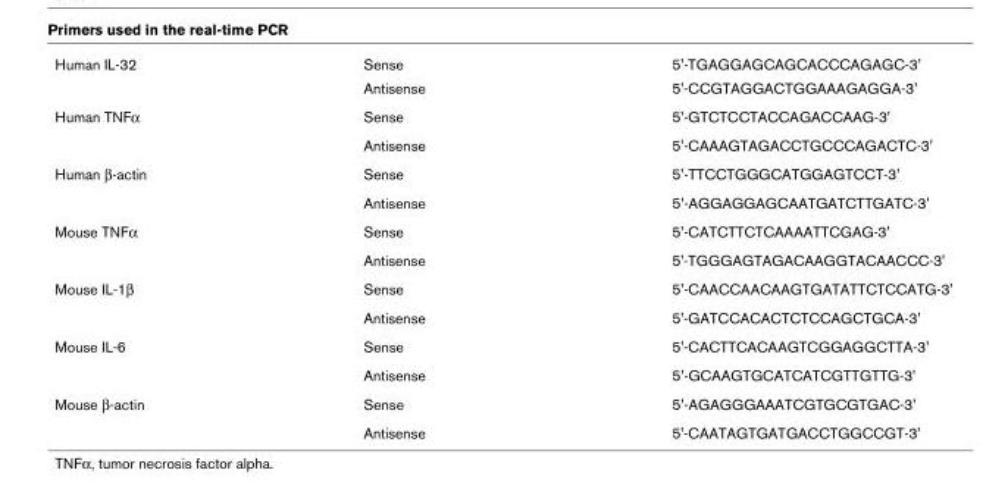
<table><tbody><tr><td rowspan="2">Human IL-32</td><td>Sense</td><td>5&#x27;-TGAGGAGCAGCACCCAGAGC-3&#x27;</td></tr><tr><td>Antisense</td><td>5&#x27;-CCGTAGGACTGGAAAGAGGA-3&#x27;</td></tr><tr><td rowspan="2">Human TNFα</td><td>Sense</td><td>5&#x27;-GTCTCCTACCAGACCAAG-3&#x27;</td></tr><tr><td>Antisense</td><td>5&#x27;-CAAAGTAGACCTGCCCAGACTC-3&#x27;</td></tr><tr><td rowspan="2">Human β-actin</td><td>Sense</td><td>5&#x27;-TTCCTGGGCATGGAGTCCT-3&#x27;</td></tr><tr><td>Antisense</td><td>5&#x27;-AGGAGGAGCAATGATCTTGATC-3&#x27;</td></tr><tr><td rowspan="2">Mouse TNFα</td><td>Sense</td><td>5&#x27;-CATCTTCTCAAAATTCGAG-3&#x27;</td></tr><tr><td>Antisense</td><td>5&#x27;-TGGGAGTAGACAAGGTACAACCC-3&#x27;</td></tr><tr><td rowspan="2">Mouse IL-1β</td><td>Sense</td><td>5&#x27;-CAACCAACAAGTGATATTCTCCATG-3&#x27;</td></tr><tr><td>Antisense</td><td>5&#x27;-GATCCACACTCTCCAGCTGCA-3&#x27;</td></tr><tr><td rowspan="2">Mouse IL-6</td><td>Sense</td><td>5&#x27;-CACTTCACAAGTCGGAGGCTTA-3&#x27;</td></tr><tr><td>Antisense</td><td>5&#x27;-GCAAGTGCATCATCGTTGTTG-3&#x27;</td></tr><tr><td rowspan="2">Mouse β-actin</td><td>Sense</td><td>5&#x27;-AGAGGGAAATCGTGCGTGAC-3&#x27;</td></tr><tr><td>Antisense</td><td>5&#x27;-CAATAGTGATGACCTGGCCGT-3&#x27;</td></tr></tbody></table>